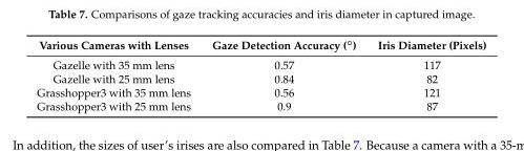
<table><thead><tr><td>Various Cameras with Lenses</td><td>Gaze Detection Accuracy (◦)</td><td>Iris Diameter (Pixels)</td></tr></thead><tbody><tr><td>Gazelle with 35 mm lens</td><td>0.57</td><td>117</td></tr><tr><td>Gazelle with 25 mm lens</td><td>0.84</td><td>82</td></tr><tr><td>Grasshopper3 with 35 mm lens</td><td>0.56</td><td>121</td></tr><tr><td>Grasshopper3 with 25 mm lens</td><td>0.9</td><td>87</td></tr></tbody></table>